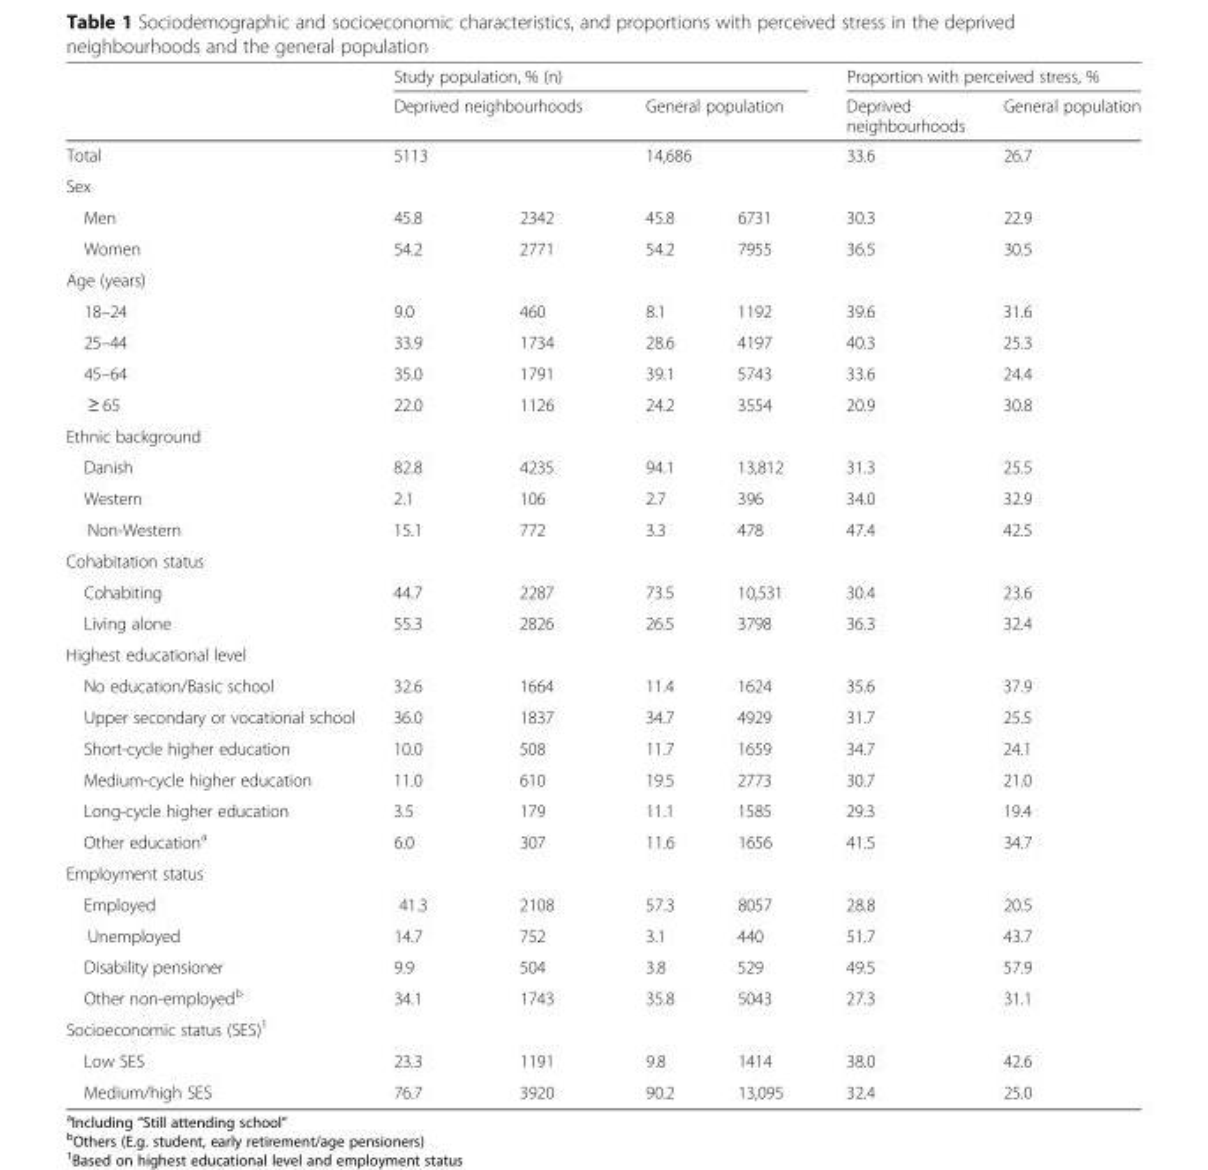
<table><thead><tr><td rowspan="3">Total</td><td colspan="4">Study population, % (n)</td><td colspan="2">Proportion with perceived stress, %</td></tr><tr><td rowspan="2" colspan="2">Deprived neighbourhoods 5113</td><td rowspan="2" colspan="2">General population 14,686</td><td rowspan="2">Deprived neighbourhoods 33.6</td><td rowspan="2">General population 26.7</td></tr><tr></tr><tr><td colspan="7">Sex</td></tr><tr><td>Men</td><td>45.8</td><td>2342</td><td>45.8</td><td>6731</td><td>30.3</td><td>22.9</td></tr></thead><tbody><tr><td>Women</td><td>54.2</td><td>2771</td><td>54.2</td><td>7955</td><td>36.5</td><td>30.5</td></tr><tr><td colspan="7">Age (years)</td></tr><tr><td>18–24</td><td>9.0</td><td>460</td><td>8.1</td><td>1192</td><td>39.6</td><td>31.6</td></tr><tr><td>25–44</td><td>33.9</td><td>1734</td><td>28.6</td><td>4197</td><td>40.3</td><td>25.3</td></tr><tr><td>45–64</td><td>35.0</td><td>1791</td><td>39.1</td><td>5743</td><td>33.6</td><td>24.4</td></tr><tr><td>≥ 65</td><td>22.0</td><td>1126</td><td>24.2</td><td>3554</td><td>20.9</td><td>30.8</td></tr><tr><td colspan="7">Ethnic background</td></tr><tr><td>Danish</td><td>82.8</td><td>4235</td><td>94.1</td><td>13,812</td><td>31.3</td><td>25.5</td></tr><tr><td>Western</td><td>2.1</td><td>106</td><td>2.7</td><td>396</td><td>34.0</td><td>32.9</td></tr><tr><td>Non-Western</td><td>15.1</td><td>772</td><td>3.3</td><td>478</td><td>47.4</td><td>42.5</td></tr><tr><td colspan="7">Cohabitation status</td></tr><tr><td>Cohabiting</td><td>44.7</td><td>2287</td><td>73.5</td><td>10,531</td><td>30.4</td><td>23.6</td></tr><tr><td>Living alone</td><td>55.3</td><td>2826</td><td>26.5</td><td>3798</td><td>36.3</td><td>32.4</td></tr><tr><td colspan="7">Highest educational level</td></tr><tr><td>No education/Basic school</td><td>32.6</td><td>1664</td><td>11.4</td><td>1624</td><td>35.6</td><td>37.9</td></tr><tr><td>Upper secondary or vocational school</td><td>36.0</td><td>1837</td><td>34.7</td><td>4929</td><td>31.7</td><td>25.5</td></tr><tr><td>Short-cycle higher education</td><td>10.0</td><td>508</td><td>11.7</td><td>1659</td><td>34.7</td><td>24.1</td></tr><tr><td>Medium-cycle higher education</td><td>11.0</td><td>610</td><td>19.5</td><td>2773</td><td>30.7</td><td>21.0</td></tr><tr><td>Long-cycle higher education</td><td>3.5</td><td>179</td><td>11.1</td><td>1585</td><td>29.3</td><td>19.4</td></tr><tr><td>Other education<sup>a</sup></td><td>6.0</td><td>307</td><td>11.6</td><td>1656</td><td>41.5</td><td>34.7</td></tr><tr><td colspan="7">Employment status</td></tr><tr><td>Employed</td><td>41.3</td><td>2108</td><td>57.3</td><td>8057</td><td>28.8</td><td>20.5</td></tr><tr><td>Unemployed</td><td>14.7</td><td>752</td><td>3.1</td><td>440</td><td>51.7</td><td>43.7</td></tr><tr><td>Disability pensioner</td><td>9.9</td><td>504</td><td>3.8</td><td>529</td><td>49.5</td><td>57.9</td></tr><tr><td>Other non-employed<sup>b</sup></td><td>34.1</td><td>1743</td><td>35.8</td><td>5043</td><td>27.3</td><td>31.1</td></tr><tr><td colspan="7">Socioeconomic status (SES)<sup>1</sup></td></tr><tr><td>Low SES</td><td>23.3</td><td>1191</td><td>9.8</td><td>1414</td><td>38.0</td><td>42.6</td></tr><tr><td>Medium/high SES</td><td>76.7</td><td>3920</td><td>90.2</td><td>13,095</td><td>32.4</td><td>25.0</td></tr></tbody></table>